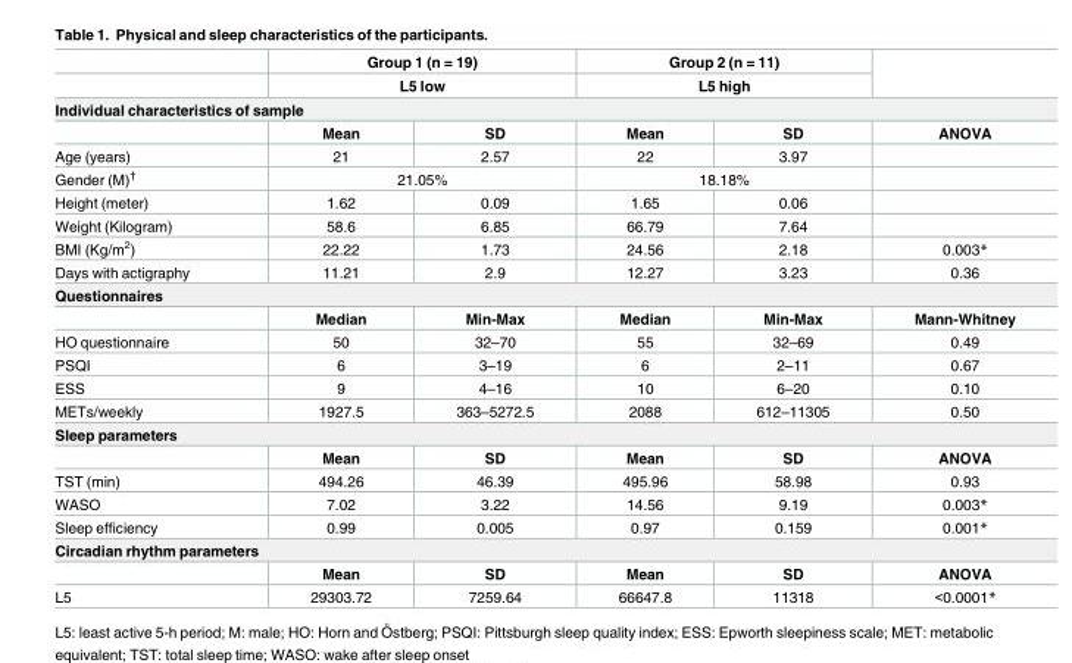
<table><thead><tr><td rowspan="2"></td><td rowspan="2" colspan="2">Group 1 (n = 19) L5 low</td><td rowspan="2" colspan="2">Group 2 (n = 11) L5 high</td><td rowspan="2"></td></tr><tr></tr><tr><td colspan="6">Individual characteristics of sample</td></tr><tr><td></td><td>Mean</td><td>SD</td><td>Mean</td><td>SD</td><td>ANOVA</td></tr></thead><tbody><tr><td>Age (years)</td><td>21</td><td>2.57</td><td>22</td><td>3.97</td><td></td></tr><tr><td>Gender (M)<sup>†</sup></td><td colspan="2">21.05%</td><td colspan="2">18.18%</td><td></td></tr><tr><td>Height (meter)</td><td>1.62</td><td>0.09</td><td>1.65</td><td>0.06</td><td></td></tr><tr><td>Weight (Kilogram)</td><td>58.6</td><td>6.85</td><td>66.79</td><td>7.64</td><td></td></tr><tr><td>BMI (Kg/m<sup>2</sup>)</td><td>22.22</td><td>1.73</td><td>24.56</td><td>2.18</td><td>0.003*</td></tr><tr><td>Days with actigraphy</td><td>11.21</td><td>2.9</td><td>12.27</td><td>3.23</td><td>0.36</td></tr><tr><td colspan="6">Questionnaires</td></tr><tr><td></td><td>Median</td><td>Min-Max</td><td>Median</td><td>Min-Max</td><td>Mann-Whitney</td></tr><tr><td>HO questionnaire</td><td>50</td><td>32–70</td><td>55</td><td>32–69</td><td>0.49</td></tr><tr><td>PSQI</td><td>6</td><td>3–19</td><td>6</td><td>2–11</td><td>0.67</td></tr><tr><td>ESS</td><td>9</td><td>4–16</td><td>10</td><td>6–20</td><td>0.10</td></tr><tr><td>METs/weekly</td><td>1927.5</td><td>363–5272.5</td><td>2088</td><td>612–11305</td><td>0.50</td></tr><tr><td colspan="6">Sleep parameters</td></tr><tr><td></td><td>Mean</td><td>SD</td><td>Mean</td><td>SD</td><td>ANOVA</td></tr><tr><td>TST (min)</td><td>494.26</td><td>46.39</td><td>495.96</td><td>58.98</td><td>0.93</td></tr><tr><td>WASO</td><td>7.02</td><td>3.22</td><td>14.56</td><td>9.19</td><td>0.003*</td></tr><tr><td>Sleep efficiency</td><td>0.99</td><td>0.005</td><td>0.97</td><td>0.159</td><td>0.001*</td></tr><tr><td colspan="6">Circadian rhythm parameters</td></tr><tr><td></td><td>Mean</td><td>SD</td><td>Mean</td><td>SD</td><td>ANOVA</td></tr><tr><td>L5</td><td>29303.72</td><td>7259.64</td><td>66647.8</td><td>11318</td><td>&lt;0.0001*</td></tr></tbody></table>